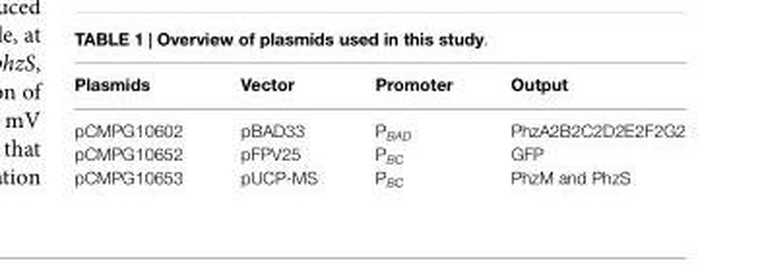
<table><thead><tr><td>Plasmids</td><td>Vector</td><td>Promoter</td><td>Output</td></tr></thead><tbody><tr><td>pCMPG10602</td><td>pBAD33</td><td>P<sub>BAD</sub></td><td>PhzA2B2C2D2E2F2G2</td></tr><tr><td>pCMPG10652</td><td>pFPV25</td><td>P<sub>BC</sub></td><td>GFP</td></tr><tr><td>pCMPG10653</td><td>pUCP-MS</td><td>P<sub>BC</sub></td><td>PhzM and PhzS</td></tr></tbody></table>